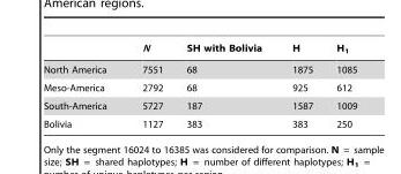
<table><thead><tr><td></td><td>N</td><td>SH with Bolivia</td><td>H</td><td>H<sub>1</sub></td></tr></thead><tbody><tr><td>North America</td><td>7551</td><td>68</td><td>1875</td><td>1085</td></tr><tr><td>Meso-America</td><td>2792</td><td>68</td><td>925</td><td>612</td></tr><tr><td>South-America</td><td>5727</td><td>187</td><td>1587</td><td>1009</td></tr><tr><td>Bolivia</td><td>1127</td><td>383</td><td>383</td><td>250</td></tr></tbody></table>